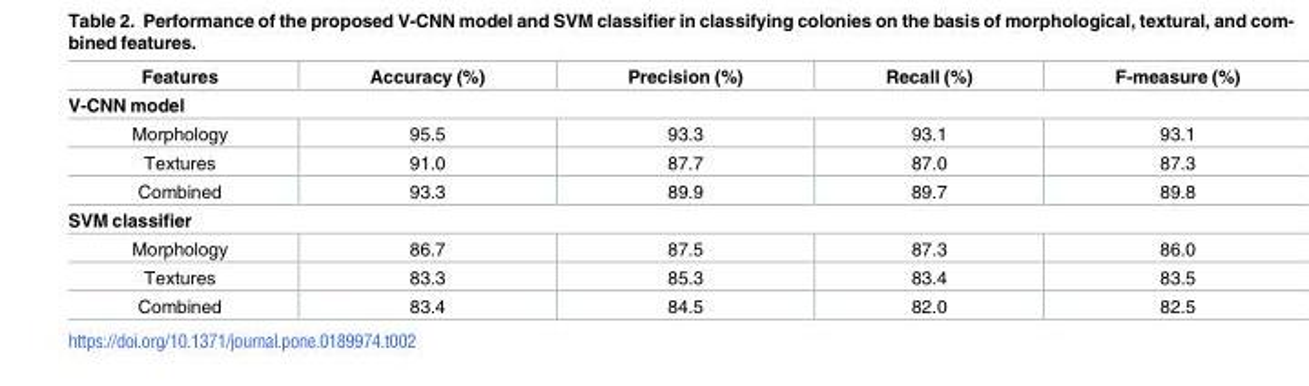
<table><thead><tr><td>Features</td><td>Accuracy (%)</td><td>Precision (%)</td><td>Recall (%)</td><td>F-measure (%)</td></tr></thead><tbody><tr><td colspan="5">V-CNN model</td></tr><tr><td>Morphology</td><td>95.5</td><td>93.3</td><td>93.1</td><td>93.1</td></tr><tr><td>Textures</td><td>91.0</td><td>87.7</td><td>87.0</td><td>87.3</td></tr><tr><td>Combined</td><td>93.3</td><td>89.9</td><td>89.7</td><td>89.8</td></tr><tr><td colspan="5">SVM classifier</td></tr><tr><td>Morphology</td><td>86.7</td><td>87.5</td><td>87.3</td><td>86.0</td></tr><tr><td>Textures</td><td>83.3</td><td>85.3</td><td>83.4</td><td>83.5</td></tr><tr><td>Combined</td><td>83.4</td><td>84.5</td><td>82.0</td><td>82.5</td></tr></tbody></table>